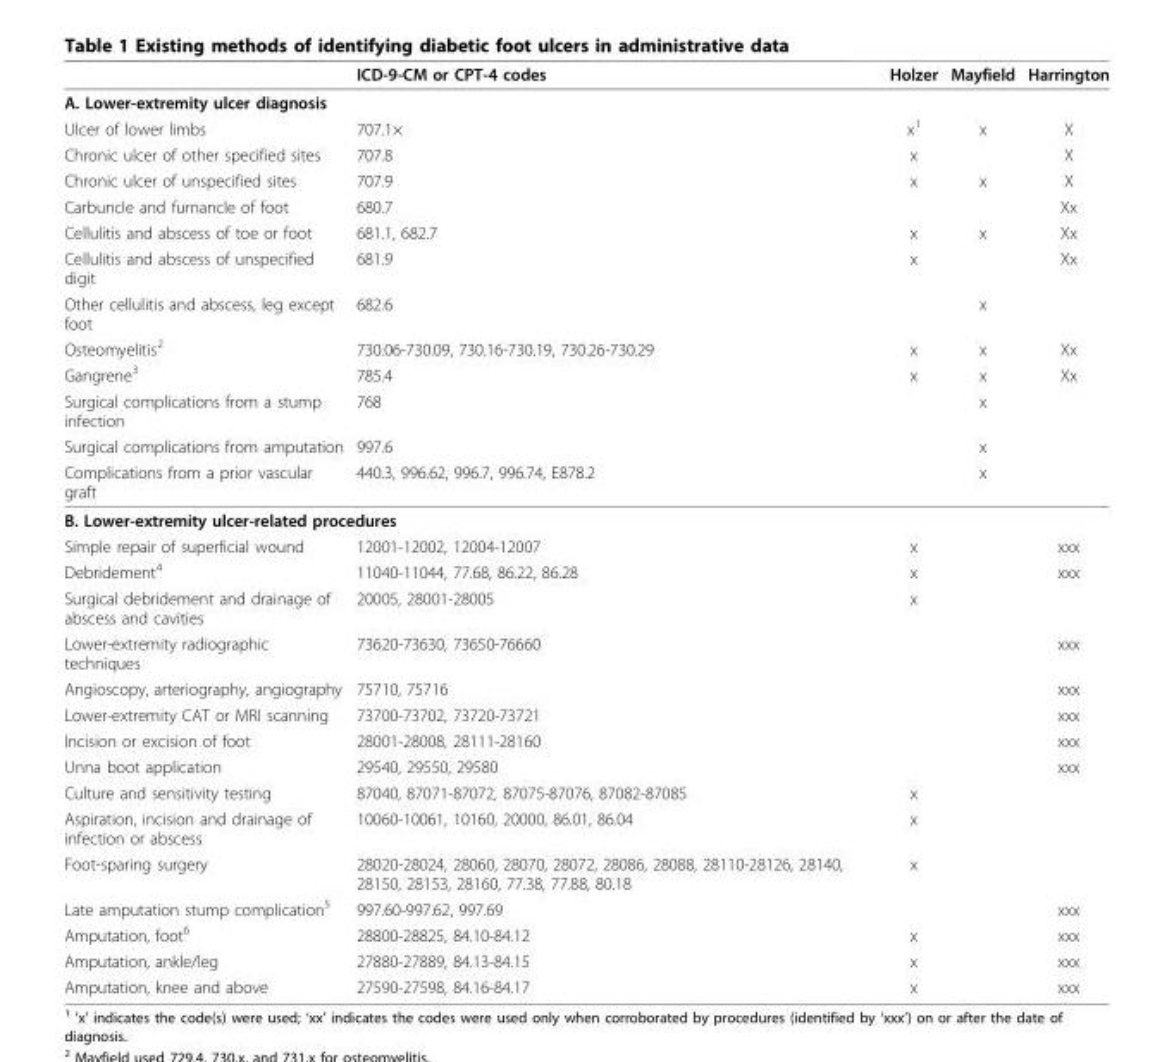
<table><thead><tr><td></td><td>ICD-9-CM or CPT-4 codes</td><td>Holzer</td><td>Mayfield</td><td>Harrington</td></tr></thead><tbody><tr><td colspan="5">A. Lower-extremity ulcer diagnosis</td></tr><tr><td>Ulcer of lower limbs</td><td>707.1×</td><td>x<sup>1</sup></td><td>x</td><td>X</td></tr><tr><td>Chronic ulcer of other specified sites</td><td>707.8</td><td>x</td><td></td><td>X</td></tr><tr><td>Chronic ulcer of unspecified sites</td><td>707.9</td><td>x</td><td>x</td><td>X</td></tr><tr><td>Carbuncle and furnancle of foot</td><td>680.7</td><td></td><td></td><td>Xx</td></tr><tr><td>Cellulitis and abscess of toe or foot</td><td>681.1, 682.7</td><td>x</td><td>x</td><td>Xx</td></tr><tr><td>Cellulitis and abscess of unspecified digit</td><td>681.9</td><td>x</td><td></td><td>Xx</td></tr><tr><td>Other cellulitis and abscess, leg except foot</td><td>682.6</td><td></td><td>x</td><td></td></tr><tr><td>Osteomyelitis<sup>2</sup></td><td>730.06-730.09, 730.16-730.19, 730.26-730.29</td><td>x</td><td>x</td><td>Xx</td></tr><tr><td>Gangrene<sup>3</sup></td><td>785.4</td><td>x</td><td>x</td><td>Xx</td></tr><tr><td>Surgical complications from a stump infection</td><td>768</td><td></td><td>x</td><td></td></tr><tr><td>Surgical complications from amputation</td><td>997.6</td><td></td><td>x</td><td></td></tr><tr><td>Complications from a prior vascular graft</td><td>440.3, 996.62, 996.7, 996.74, E878.2</td><td></td><td>x</td><td></td></tr><tr><td colspan="5">B. Lower-extremity ulcer-related procedures</td></tr><tr><td>Simple repair of superficial wound</td><td>12001-12002, 12004-12007</td><td>x</td><td></td><td>xxx</td></tr><tr><td>Debridement<sup>4</sup></td><td>11040-11044, 77.68, 86.22, 86.28</td><td>x</td><td></td><td>xxx</td></tr><tr><td>Surgical debridement and drainage of abscess and cavities</td><td>20005, 28001-28005</td><td>x</td><td></td><td></td></tr><tr><td>Lower-extremity radiographic techniques</td><td>73620-73630, 73650-76660</td><td></td><td></td><td>xxx</td></tr><tr><td>Angioscopy, arteriography, angiography</td><td>75710, 75716</td><td></td><td></td><td>xxx</td></tr><tr><td>Lower-extremity CAT or MRI scanning</td><td>73700-73702, 73720-73721</td><td></td><td></td><td>xxx</td></tr><tr><td>Incision or excision of foot</td><td>28001-28008, 28111-28160</td><td></td><td></td><td>xxx</td></tr><tr><td>Unna boot application</td><td>29540, 29550, 29580</td><td></td><td></td><td>xxx</td></tr><tr><td>Culture and sensitivity testing</td><td>87040, 87071-87072, 87075-87076, 87082-87085</td><td>x</td><td></td><td></td></tr><tr><td>Aspiration, incision and drainage of infection or abscess</td><td>10060-10061, 10160, 20000, 86.01, 86.04</td><td>x</td><td></td><td></td></tr><tr><td>Foot-sparing surgery</td><td>28020-28024, 28060, 28070, 28072, 28086, 28088, 28110-28126, 28140, 28150, 28153, 28160, 77.38, 77.88, 80.18</td><td>x</td><td></td><td></td></tr><tr><td>Late amputation stump complication<sup>5</sup></td><td>997.60-997.62, 997.69</td><td></td><td></td><td>xxx</td></tr><tr><td>Amputation, foot<sup>6</sup></td><td>28800-28825, 84.10-84.12</td><td>x</td><td></td><td>xxx</td></tr><tr><td>Amputation, ankle/leg</td><td>27880-27889, 84.13-84.15</td><td>x</td><td></td><td>xxx</td></tr><tr><td>Amputation, knee and above</td><td>27590-27598, 84.16-84.17</td><td>x</td><td></td><td>xxx</td></tr></tbody></table>